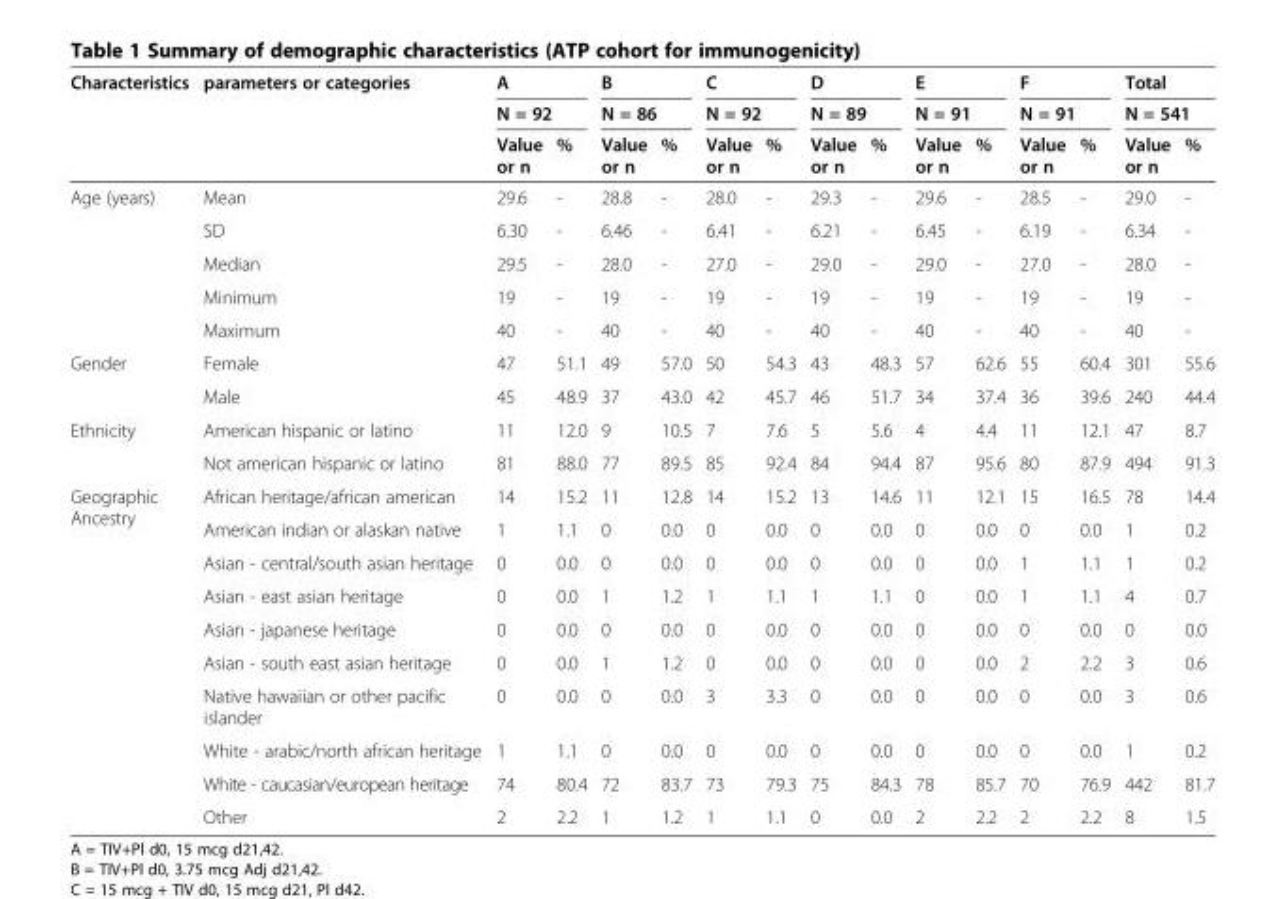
<table><thead><tr><td rowspan="3">Characteristics</td><td rowspan="3">parameters or categories</td><td rowspan="2" colspan="2">A N = 92</td><td rowspan="2" colspan="2">B N = 86</td><td rowspan="2" colspan="2">C N = 92</td><td rowspan="2" colspan="2">D N = 89</td><td rowspan="2" colspan="2">E N = 91</td><td rowspan="2" colspan="2">F N = 91</td><td rowspan="2" colspan="2">Total N = 541</td></tr><tr></tr><tr><td>Value or n</td><td>%</td><td>Value or n</td><td>%</td><td>Value or n</td><td>%</td><td>Value or n</td><td>%</td><td>Value or n</td><td>%</td><td>Value or n</td><td>%</td><td>Value or n</td><td>%</td></tr></thead><tbody><tr><td rowspan="5">Age (years)</td><td>Mean</td><td>29.6</td><td>-</td><td>28.8</td><td>-</td><td>28.0</td><td>-</td><td>29.3</td><td>-</td><td>29.6</td><td>-</td><td>28.5</td><td>-</td><td>29.0</td><td>-</td></tr><tr><td>SD</td><td>6.30</td><td>-</td><td>6.46</td><td>-</td><td>6.41</td><td>-</td><td>6.21</td><td>-</td><td>6.45</td><td>-</td><td>6.19</td><td>-</td><td>6.34</td><td>-</td></tr><tr><td>Median</td><td>29.5</td><td>-</td><td>28.0</td><td>-</td><td>27.0</td><td>-</td><td>29.0</td><td>-</td><td>29.0</td><td>-</td><td>27.0</td><td>-</td><td>28.0</td><td>-</td></tr><tr><td>Minimum</td><td>19</td><td>-</td><td>19</td><td>-</td><td>19</td><td>-</td><td>19</td><td>-</td><td>19</td><td>-</td><td>19</td><td>-</td><td>19</td><td>-</td></tr><tr><td>Maximum</td><td>40</td><td>-</td><td>40</td><td>-</td><td>40</td><td>-</td><td>40</td><td>-</td><td>40</td><td>-</td><td>40</td><td>-</td><td>40</td><td>-</td></tr><tr><td rowspan="2">Gender</td><td>Female</td><td>47</td><td>51.1</td><td>49</td><td>57.0</td><td>50</td><td>54.3</td><td>43</td><td>48.3</td><td>57</td><td>62.6</td><td>55</td><td>60.4</td><td>301</td><td>55.6</td></tr><tr><td>Male</td><td>45</td><td>48.9</td><td>37</td><td>43.0</td><td>42</td><td>45.7</td><td>46</td><td>51.7</td><td>34</td><td>37.4</td><td>36</td><td>39.6</td><td>240</td><td>44.4</td></tr><tr><td rowspan="2">Ethnicity</td><td>American hispanic or latino</td><td>11</td><td>12.0</td><td>9</td><td>10.5</td><td>7</td><td>7.6</td><td>5</td><td>5.6</td><td>4</td><td>4.4</td><td>11</td><td>12.1</td><td>47</td><td>8.7</td></tr><tr><td>Not american hispanic or latino</td><td>81</td><td>88.0</td><td>77</td><td>89.5</td><td>85</td><td>92.4</td><td>84</td><td>94.4</td><td>87</td><td>95.6</td><td>80</td><td>87.9</td><td>494</td><td>91.3</td></tr><tr><td rowspan="10">Geographic Ancestry</td><td>African heritage/african american</td><td>14</td><td>15.2</td><td>11</td><td>12.8</td><td>14</td><td>15.2</td><td>13</td><td>14.6</td><td>11</td><td>12.1</td><td>15</td><td>16.5</td><td>78</td><td>14.4</td></tr><tr><td>American indian or alaskan native</td><td>1</td><td>1.1</td><td>0</td><td>0.0</td><td>0</td><td>0.0</td><td>0</td><td>0.0</td><td>0</td><td>0.0</td><td>0</td><td>0.0</td><td>1</td><td>0.2</td></tr><tr><td>Asian - central/south asian heritage</td><td>0</td><td>0.0</td><td>0</td><td>0.0</td><td>0</td><td>0.0</td><td>0</td><td>0.0</td><td>0</td><td>0.0</td><td>1</td><td>1.1</td><td>1</td><td>0.2</td></tr><tr><td>Asian - east asian heritage</td><td>0</td><td>0.0</td><td>1</td><td>1.2</td><td>1</td><td>1.1</td><td>1</td><td>1.1</td><td>0</td><td>0.0</td><td>1</td><td>1.1</td><td>4</td><td>0.7</td></tr><tr><td>Asian - japanese heritage</td><td>0</td><td>0.0</td><td>0</td><td>0.0</td><td>0</td><td>0.0</td><td>0</td><td>0.0</td><td>0</td><td>0.0</td><td>0</td><td>0.0</td><td>0</td><td>0.0</td></tr><tr><td>Asian - south east asian heritage</td><td>0</td><td>0.0</td><td>1</td><td>1.2</td><td>0</td><td>0.0</td><td>0</td><td>0.0</td><td>0</td><td>0.0</td><td>2</td><td>2.2</td><td>3</td><td>0.6</td></tr><tr><td>Native hawaiian or other pacific islander</td><td>0</td><td>0.0</td><td>0</td><td>0.0</td><td>3</td><td>3.3</td><td>0</td><td>0.0</td><td>0</td><td>0.0</td><td>0</td><td>0.0</td><td>3</td><td>0.6</td></tr><tr><td>White - arabic/north african heritage</td><td>1</td><td>1.1</td><td>0</td><td>0.0</td><td>0</td><td>0.0</td><td>0</td><td>0.0</td><td>0</td><td>0.0</td><td>0</td><td>0.0</td><td>1</td><td>0.2</td></tr><tr><td>White - caucasian/european heritage</td><td>74</td><td>80.4</td><td>72</td><td>83.7</td><td>73</td><td>79.3</td><td>75</td><td>84.3</td><td>78</td><td>85.7</td><td>70</td><td>76.9</td><td>442</td><td>81.7</td></tr><tr><td>Other</td><td>2</td><td>2.2</td><td>1</td><td>1.2</td><td>1</td><td>1.1</td><td>0</td><td>0.0</td><td>2</td><td>2.2</td><td>2</td><td>2.2</td><td>8</td><td>1.5</td></tr></tbody></table>